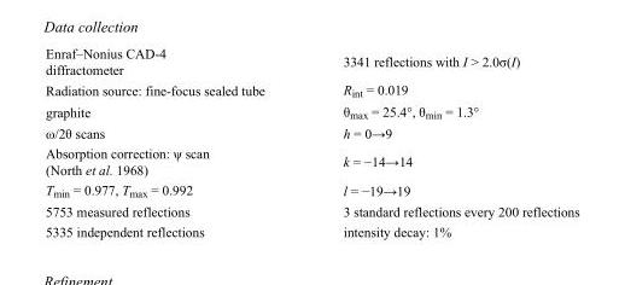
<table><tbody><tr><td>Enraf–Nonius CAD-4 diffractometer</td><td>3341 reflections with I &gt; 2.0σ(I)</td></tr><tr><td>Radiation source: fine-focus sealed tube</td><td>R<sub>int</sub> = 0.019</td></tr><tr><td>graphite</td><td>θ<sub>max</sub> = 25.4°, θ<sub>min</sub> = 1.3°</td></tr><tr><td>ω/2θ scans</td><td>h = 0→9</td></tr><tr><td>Absorption correction: ψ scan (North et al. 1968)</td><td>k = −14→14</td></tr><tr><td>T<sub>min</sub> = 0.977, T<sub>max</sub> = 0.992</td><td>l = −19→19</td></tr><tr><td>5753 measured reflections</td><td>3 standard reflections every 200 reflections</td></tr><tr><td>5335 independent reflections</td><td>intensity decay: 1%</td></tr></tbody></table>